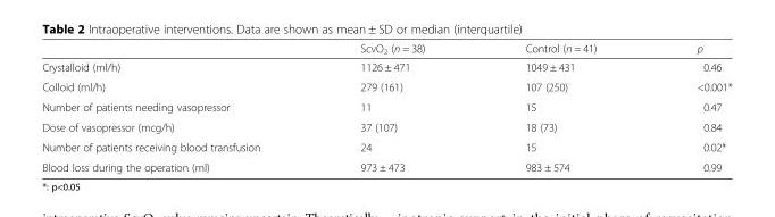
<table><thead><tr><td></td><td>ScvO<sub>2</sub> (n = 38)</td><td>Control (n = 41)</td><td>p</td></tr></thead><tbody><tr><td>Crystalloid (ml/h)</td><td>1126 ± 471</td><td>1049 ± 431</td><td>0.46</td></tr><tr><td>Colloid (ml/h)</td><td>279 (161)</td><td>107 (250)</td><td>&lt;0.001*</td></tr><tr><td>Number of patients needing vasopressor</td><td>11</td><td>15</td><td>0.47</td></tr><tr><td>Dose of vasopressor (mcg/h)</td><td>37 (107)</td><td>18 (73)</td><td>0.84</td></tr><tr><td>Number of patients receiving blood transfusion</td><td>24</td><td>15</td><td>0.02*</td></tr><tr><td>Blood loss during the operation (ml)</td><td>973 ± 473</td><td>983 ± 574</td><td>0.99</td></tr></tbody></table>